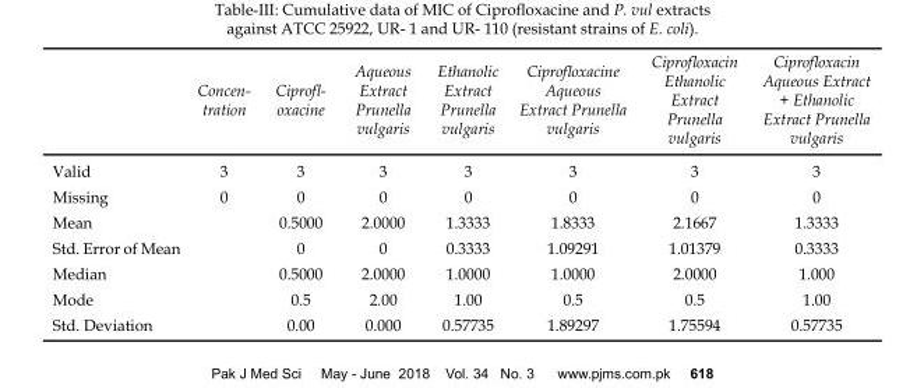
<table><thead><tr><td></td><td>Concen- tration</td><td>Ciprofl- oxacine</td><td>Aqueous Extract Prunella vulgaris</td><td>Ethanolic Extract Prunella vulgaris</td><td>Ciprofloxacine Aqueous Extract Prunella vulgaris</td><td>Ciprofloxacin Ethanolic Extract Prunella vulgaris</td><td>Ciprofloxacin Aqueous Extract + Ethanolic Extract Prunella vulgaris</td></tr></thead><tbody><tr><td>Valid</td><td>3</td><td>3</td><td>3</td><td>3</td><td>3</td><td>3</td><td>3</td></tr><tr><td>Missing</td><td>0</td><td>0</td><td>0</td><td>0</td><td>0</td><td>0</td><td>0</td></tr><tr><td>Mean</td><td></td><td>0.5000</td><td>2.0000</td><td>1.3333</td><td>1.8333</td><td>2.1667</td><td>1.3333</td></tr><tr><td>Std. Error of Mean</td><td></td><td>0</td><td>0</td><td>0.3333</td><td>1.09291</td><td>1.01379</td><td>0.3333</td></tr><tr><td>Median</td><td></td><td>0.5000</td><td>2.0000</td><td>1.0000</td><td>1.0000</td><td>2.0000</td><td>1.000</td></tr><tr><td>Mode</td><td></td><td>0.5</td><td>2.00</td><td>1.00</td><td>0.5</td><td>0.5</td><td>1.00</td></tr><tr><td>Std. Deviation</td><td></td><td>0.00</td><td>0.000</td><td>0.57735</td><td>1.89297</td><td>1.75594</td><td>0.57735</td></tr></tbody></table>